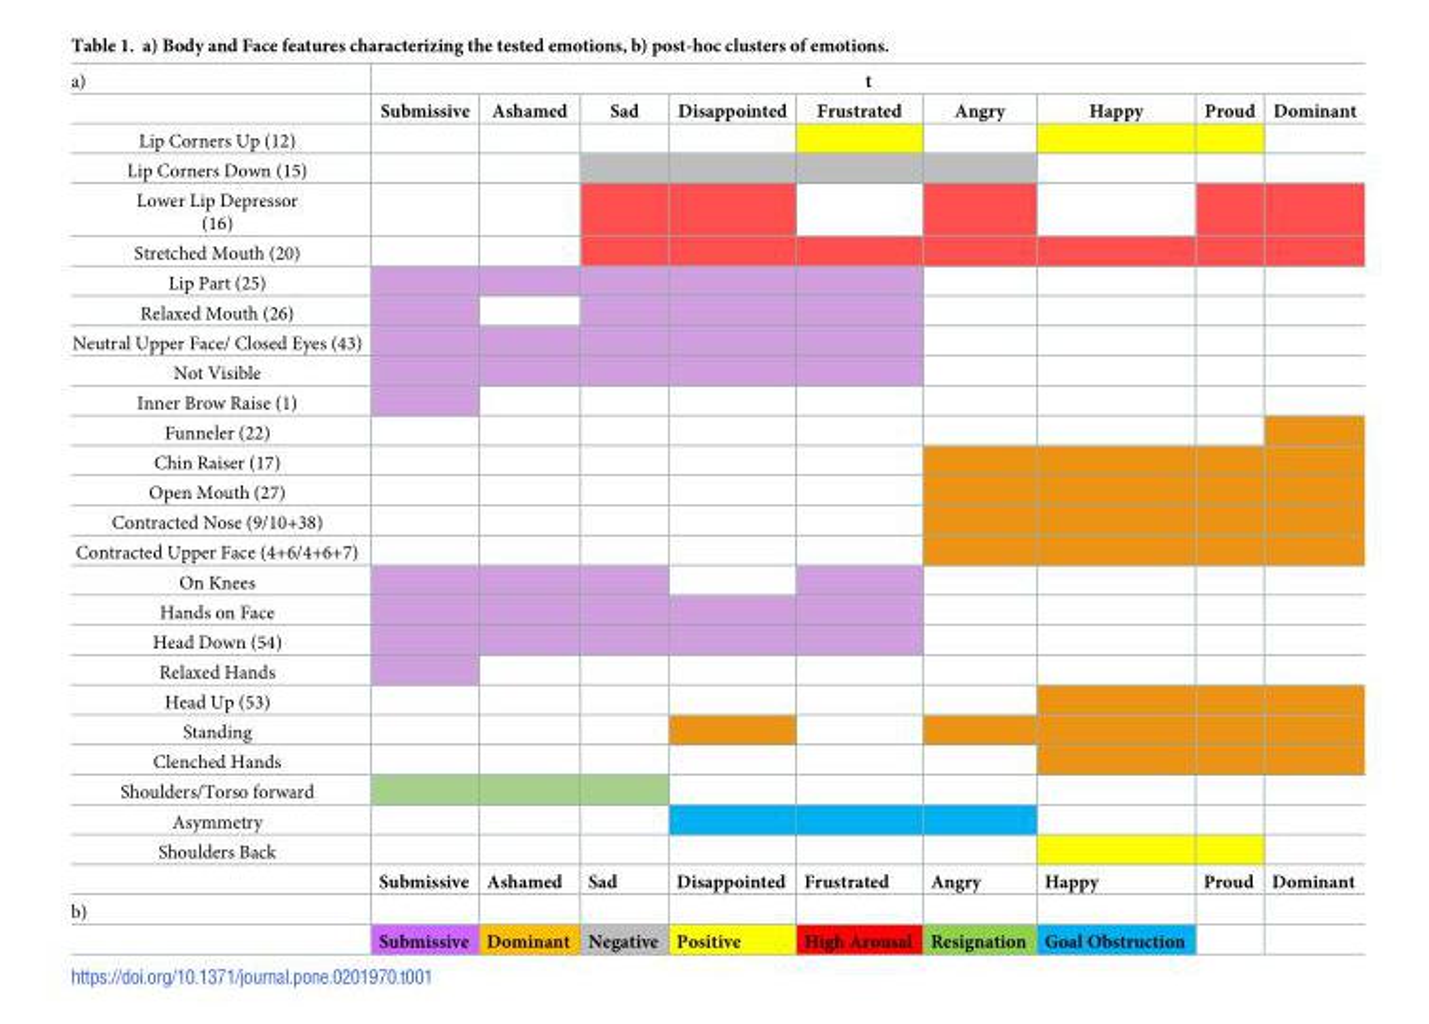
<table><tbody><tr><td rowspan="2">a)</td><td colspan="9">t</td></tr><tr><td>Submissive</td><td>Ashamed</td><td>Sad</td><td>Disappointed</td><td>Frustrated</td><td>Angry</td><td>Happy</td><td>Proud</td><td>Dominant</td></tr><tr><td colspan="10">Lip Corners Up (12)</td></tr><tr><td colspan="10">Lip Corners Down (15)</td></tr><tr><td colspan="10">Lower Lip Depressor (16)</td></tr><tr><td colspan="10">Stretched Mouth (20)</td></tr><tr><td colspan="10">Lip Part (25)</td></tr><tr><td colspan="10">Relaxed Mouth (26)</td></tr><tr><td colspan="10">Neutral Upper Face/ Closed Eyes (43)</td></tr><tr><td colspan="10">Not Visible</td></tr><tr><td colspan="10">Inner Brow Raise (1)</td></tr><tr><td colspan="10">Funneler (22)</td></tr><tr><td colspan="10">Chin Raiser (17)</td></tr><tr><td colspan="10">Open Mouth (27)</td></tr><tr><td colspan="10">Contracted Nose (9/10+38)</td></tr><tr><td colspan="10">Contracted Upper Face (4+6/4+6+7)</td></tr><tr><td colspan="10">On Knees</td></tr><tr><td colspan="10">Hands on Face</td></tr><tr><td colspan="10">Head Down (54)</td></tr><tr><td colspan="10">Relaxed Hands</td></tr><tr><td colspan="10">Head Up (53)</td></tr><tr><td colspan="10">Standing</td></tr><tr><td colspan="10">Clenched Hands</td></tr><tr><td colspan="10">Shoulders/Torso forward</td></tr><tr><td colspan="10">Asymmetry</td></tr><tr><td colspan="10">Shoulders Back</td></tr><tr><td></td><td>Submissive</td><td>Ashamed</td><td>Sad</td><td>Disappointed</td><td>Frustrated</td><td>Angry</td><td>Happy</td><td>Proud</td><td>Dominant</td></tr><tr><td colspan="10">b)</td></tr><tr><td></td><td>Submissive</td><td>Dominant</td><td>Negative</td><td>Positive</td><td>High Arousal</td><td>Resignation</td><td>Goal Obstruction</td><td></td><td></td></tr></tbody></table>